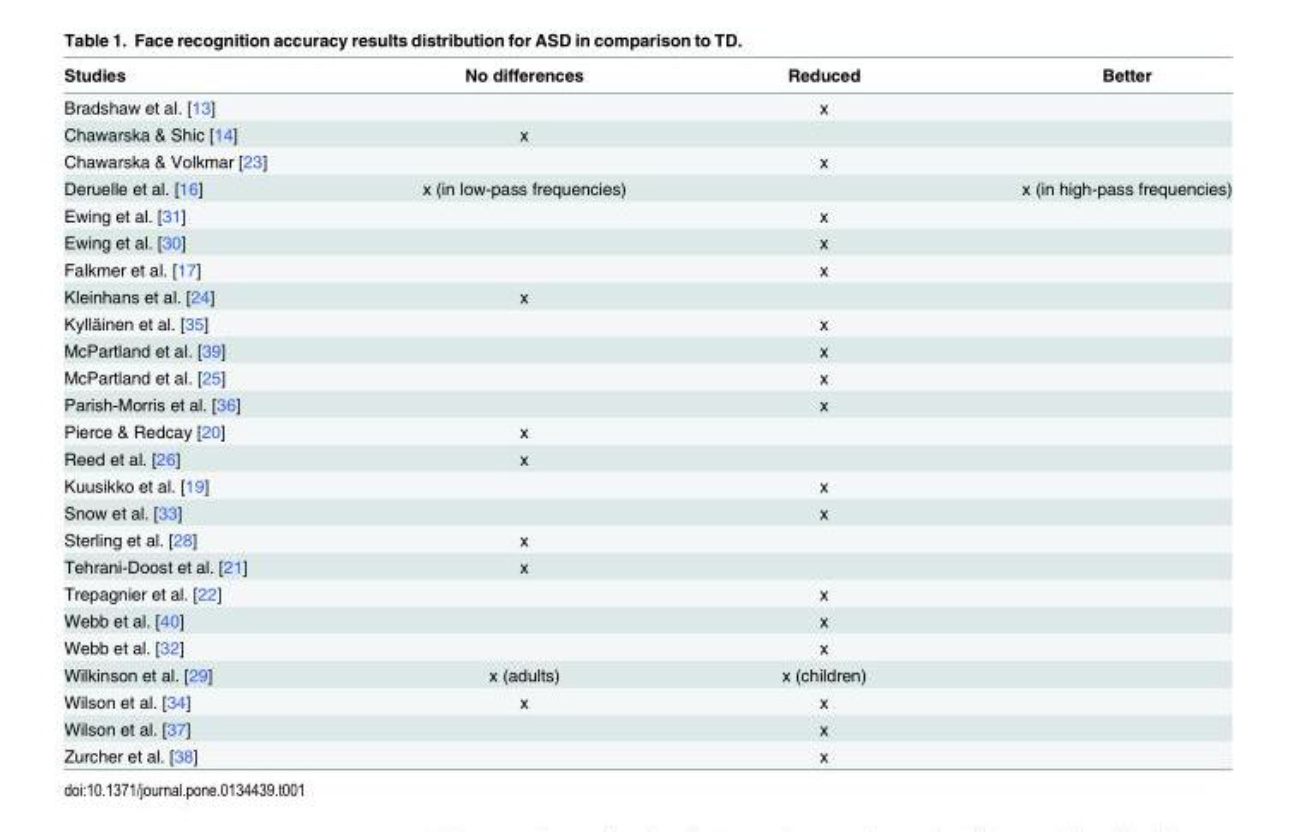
<table><thead><tr><td>Studies</td><td>No differences</td><td>Reduced</td><td>Better</td></tr></thead><tbody><tr><td>Bradshaw et al. [13]</td><td></td><td>x</td><td></td></tr><tr><td>Chawarska &amp; Shic [14]</td><td>x</td><td></td><td></td></tr><tr><td>Chawarska &amp; Volkmar [23]</td><td></td><td>x</td><td></td></tr><tr><td>Deruelle et al. [16]</td><td>x (in low-pass frequencies)</td><td></td><td>x (in high-pass frequencies)</td></tr><tr><td>Ewing et al. [31]</td><td></td><td>x</td><td></td></tr><tr><td>Ewing et al. [30]</td><td></td><td>x</td><td></td></tr><tr><td>Falkmer et al. [17]</td><td></td><td>x</td><td></td></tr><tr><td>Kleinhans et al. [24]</td><td>x</td><td></td><td></td></tr><tr><td>Kylläinen et al. [35]</td><td></td><td>x</td><td></td></tr><tr><td>McPartland et al. [39]</td><td></td><td>x</td><td></td></tr><tr><td>McPartland et al. [25]</td><td></td><td>x</td><td></td></tr><tr><td>Parish-Morris et al. [36]</td><td></td><td>x</td><td></td></tr><tr><td>Pierce &amp; Redcay [20]</td><td>x</td><td></td><td></td></tr><tr><td>Reed et al. [26]</td><td>x</td><td></td><td></td></tr><tr><td>Kuusikko et al. [19]</td><td></td><td>x</td><td></td></tr><tr><td>Snow et al. [33]</td><td></td><td>x</td><td></td></tr><tr><td>Sterling et al. [28]</td><td>x</td><td></td><td></td></tr><tr><td>Tehrani-Doost et al. [21]</td><td>x</td><td></td><td></td></tr><tr><td>Trepagnier et al. [22]</td><td></td><td>x</td><td></td></tr><tr><td>Webb et al. [40]</td><td></td><td>x</td><td></td></tr><tr><td>Webb et al. [32]</td><td></td><td>x</td><td></td></tr><tr><td>Wilkinson et al. [29]</td><td>x (adults)</td><td>x (children)</td><td></td></tr><tr><td>Wilson et al. [34]</td><td>x</td><td>x</td><td></td></tr><tr><td>Wilson et al. [37]</td><td></td><td>x</td><td></td></tr><tr><td>Zurcher et al. [38]</td><td></td><td>x</td><td></td></tr></tbody></table>